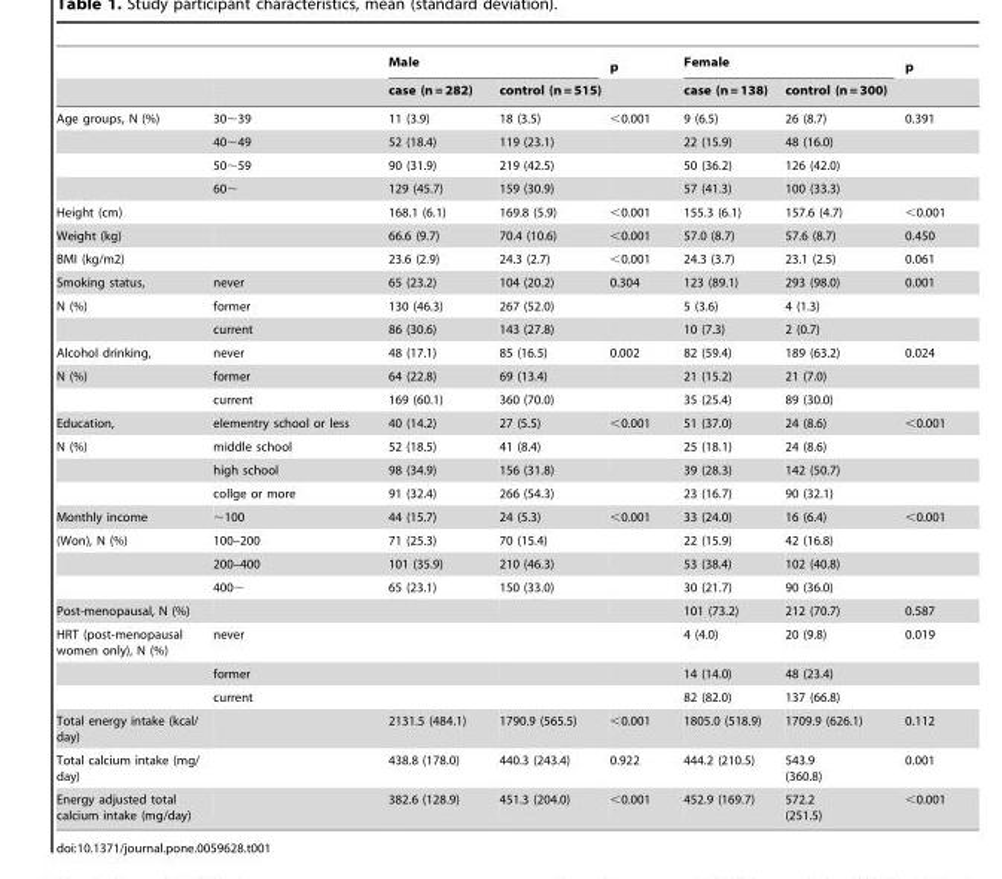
<table><thead><tr><td rowspan="2"></td><td rowspan="2"></td><td colspan="2">Male</td><td rowspan="2">p</td><td colspan="2">Female</td><td rowspan="2">p</td></tr><tr><td>case (n = 282)</td><td>control (n = 515)</td><td>case (n = 138)</td><td>control (n = 300)</td></tr></thead><tbody><tr><td rowspan="4">Age groups, N (%)</td><td>30∼39</td><td>11 (3.9)</td><td>18 (3.5)</td><td>&lt;0.001</td><td>9 (6.5)</td><td>26 (8.7)</td><td>0.391</td></tr><tr><td>40∼49</td><td>52 (18.4)</td><td>119 (23.1)</td><td></td><td>22 (15.9)</td><td>48 (16.0)</td><td></td></tr><tr><td>50∼59</td><td>90 (31.9)</td><td>219 (42.5)</td><td></td><td>50 (36.2)</td><td>126 (42.0)</td><td></td></tr><tr><td>60∼</td><td>129 (45.7)</td><td>159 (30.9)</td><td></td><td>57 (41.3)</td><td>100 (33.3)</td><td></td></tr><tr><td>Height (cm)</td><td></td><td>168.1 (6.1)</td><td>169.8 (5.9)</td><td>&lt;0.001</td><td>155.3 (6.1)</td><td>157.6 (4.7)</td><td>&lt;0.001</td></tr><tr><td>Weight (kg)</td><td></td><td>66.6 (9.7)</td><td>70.4 (10.6)</td><td>&lt;0.001</td><td>57.0 (8.7)</td><td>57.6 (8.7)</td><td>0.450</td></tr><tr><td>BMI (kg/m2)</td><td></td><td>23.6 (2.9)</td><td>24.3 (2.7)</td><td>&lt;0.001</td><td>24.3 (3.7)</td><td>23.1 (2.5)</td><td>0.061</td></tr><tr><td>Smoking status,</td><td>never</td><td>65 (23.2)</td><td>104 (20.2)</td><td>0.304</td><td>123 (89.1)</td><td>293 (98.0)</td><td>0.001</td></tr><tr><td rowspan="2">N (%)</td><td>former</td><td>130 (46.3)</td><td>267 (52.0)</td><td></td><td>5 (3.6)</td><td>4 (1.3)</td><td></td></tr><tr><td>current</td><td>86 (30.6)</td><td>143 (27.8)</td><td></td><td>10 (7.3)</td><td>2 (0.7)</td><td></td></tr><tr><td>Alcohol drinking,</td><td>never</td><td>48 (17.1)</td><td>85 (16.5)</td><td>0.002</td><td>82 (59.4)</td><td>189 (63.2)</td><td>0.024</td></tr><tr><td rowspan="2">N (%)</td><td>former</td><td>64 (22.8)</td><td>69 (13.4)</td><td></td><td>21 (15.2)</td><td>21 (7.0)</td><td></td></tr><tr><td>current</td><td>169 (60.1)</td><td>360 (70.0)</td><td></td><td>35 (25.4)</td><td>89 (30.0)</td><td></td></tr><tr><td>Education,</td><td>elementry school or less</td><td>40 (14.2)</td><td>27 (5.5)</td><td>&lt;0.001</td><td>51 (37.0)</td><td>24 (8.6)</td><td>&lt;0.001</td></tr><tr><td rowspan="3">N (%)</td><td>middle school</td><td>52 (18.5)</td><td>41 (8.4)</td><td></td><td>25 (18.1)</td><td>24 (8.6)</td><td></td></tr><tr><td>high school</td><td>98 (34.9)</td><td>156 (31.8)</td><td></td><td>39 (28.3)</td><td>142 (50.7)</td><td></td></tr><tr><td>collge or more</td><td>91 (32.4)</td><td>266 (54.3)</td><td></td><td>23 (16.7)</td><td>90 (32.1)</td><td></td></tr><tr><td>Monthly income</td><td>∼100</td><td>44 (15.7)</td><td>24 (5.3)</td><td>&lt;0.001</td><td>33 (24.0)</td><td>16 (6.4)</td><td>&lt;0.001</td></tr><tr><td rowspan="3">(Won), N (%)</td><td>100–200</td><td>71 (25.3)</td><td>70 (15.4)</td><td></td><td>22 (15.9)</td><td>42 (16.8)</td><td></td></tr><tr><td>200–400</td><td>101 (35.9)</td><td>210 (46.3)</td><td></td><td>53 (38.4)</td><td>102 (40.8)</td><td></td></tr><tr><td>400∼</td><td>65 (23.1)</td><td>150 (33.0)</td><td></td><td>30 (21.7)</td><td>90 (36.0)</td><td></td></tr><tr><td>Post-menopausal, N (%)</td><td></td><td></td><td></td><td></td><td>101 (73.2)</td><td>212 (70.7)</td><td>0.587</td></tr><tr><td rowspan="3">HRT (post-menopausal women only), N (%)</td><td>never</td><td></td><td></td><td></td><td>4 (4.0)</td><td>20 (9.8)</td><td>0.019</td></tr><tr><td>former</td><td></td><td></td><td></td><td>14 (14.0)</td><td>48 (23.4)</td><td></td></tr><tr><td>current</td><td></td><td></td><td></td><td>82 (82.0)</td><td>137 (66.8)</td><td></td></tr><tr><td>Total energy intake (kcal/ day)</td><td></td><td>2131.5 (484.1)</td><td>1790.9 (565.5)</td><td>&lt;0.001</td><td>1805.0 (518.9)</td><td>1709.9 (626.1)</td><td>0.112</td></tr><tr><td>Total calcium intake (mg/ day)</td><td></td><td>438.8 (178.0)</td><td>440.3 (243.4)</td><td>0.922</td><td>444.2 (210.5)</td><td>543.9 (360.8)</td><td>0.001</td></tr><tr><td>Energy adjusted total calcium intake (mg/day)</td><td></td><td>382.6 (128.9)</td><td>451.3 (204.0)</td><td>&lt;0.001</td><td>452.9 (169.7)</td><td>572.2 (251.5)</td><td>&lt;0.001</td></tr></tbody></table>